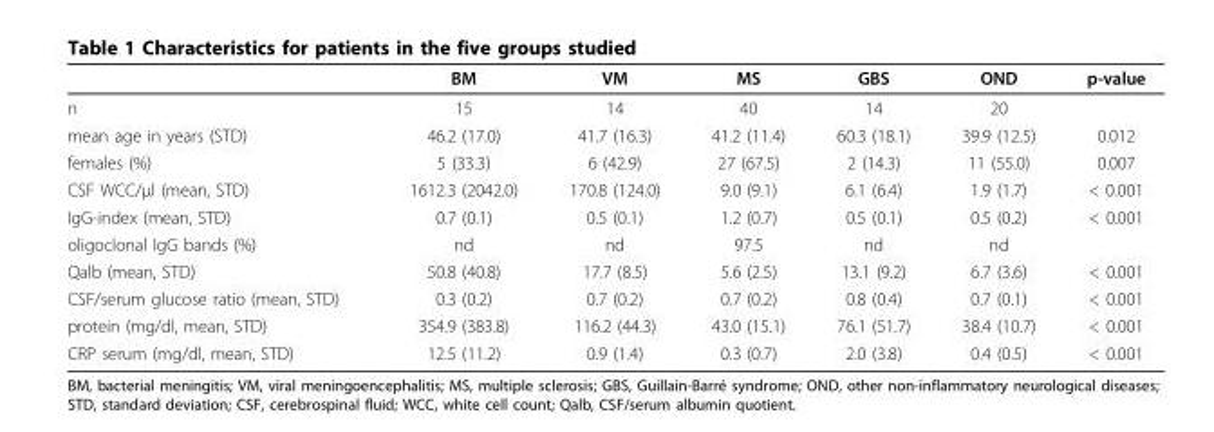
<table><thead><tr><td></td><td>BM</td><td>VM</td><td>MS</td><td>GBS</td><td>OND</td><td>p-value</td></tr></thead><tbody><tr><td>n</td><td>15</td><td>14</td><td>40</td><td>14</td><td>20</td><td></td></tr><tr><td>mean age in years (STD)</td><td>46.2 (17.0)</td><td>41.7 (16.3)</td><td>41.2 (11.4)</td><td>60.3 (18.1)</td><td>39.9 (12.5)</td><td>0.012</td></tr><tr><td>females (%)</td><td>5 (33.3)</td><td>6 (42.9)</td><td>27 (67.5)</td><td>2 (14.3)</td><td>11 (55.0)</td><td>0.007</td></tr><tr><td>CSF WCC/μl (mean, STD)</td><td>1612.3 (2042.0)</td><td>170.8 (124.0)</td><td>9.0 (9.1)</td><td>6.1 (6.4)</td><td>1.9 (1.7)</td><td>&lt; 0.001</td></tr><tr><td>IgG-index (mean, STD)</td><td>0.7 (0.1)</td><td>0.5 (0.1)</td><td>1.2 (0.7)</td><td>0.5 (0.1)</td><td>0.5 (0.2)</td><td>&lt; 0.001</td></tr><tr><td>oligoclonal IgG bands (%)</td><td>nd</td><td>nd</td><td>97.5</td><td>nd</td><td>nd</td><td></td></tr><tr><td>Qalb (mean, STD)</td><td>50.8 (40.8)</td><td>17.7 (8.5)</td><td>5.6 (2.5)</td><td>13.1 (9.2)</td><td>6.7 (3.6)</td><td>&lt; 0.001</td></tr><tr><td>CSF/serum glucose ratio (mean, STD)</td><td>0.3 (0.2)</td><td>0.7 (0.2)</td><td>0.7 (0.2)</td><td>0.8 (0.4)</td><td>0.7 (0.1)</td><td>&lt; 0.001</td></tr><tr><td>protein (mg/dl, mean, STD)</td><td>354.9 (383.8)</td><td>116.2 (44.3)</td><td>43.0 (15.1)</td><td>76.1 (51.7)</td><td>38.4 (10.7)</td><td>&lt; 0.001</td></tr><tr><td>CRP serum (mg/dl, mean, STD)</td><td>12.5 (11.2)</td><td>0.9 (1.4)</td><td>0.3 (0.7)</td><td>2.0 (3.8)</td><td>0.4 (0.5)</td><td>&lt; 0.001</td></tr></tbody></table>